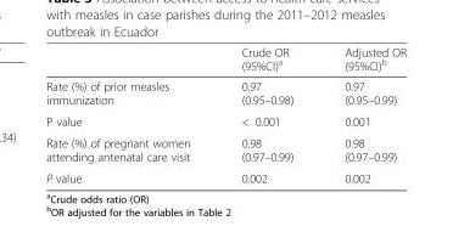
<table><thead><tr><td></td><td>Crude OR (95%CI)<sup>a</sup></td><td>Adjusted OR (95%CI)<sup>b</sup></td></tr></thead><tbody><tr><td>Rate (%) of prior measles immunization</td><td>0.97 (0.95–0.98)</td><td>0.97 (0.95–0.99)</td></tr><tr><td>P value</td><td>&lt; 0.001</td><td>0.001</td></tr><tr><td>Rate (%) of pregnant women attending antenatal care visit</td><td>0.98 (0.97–0.99)</td><td>0.98 (0.97–0.99)</td></tr><tr><td>P value</td><td>0.002</td><td>0.002</td></tr></tbody></table>